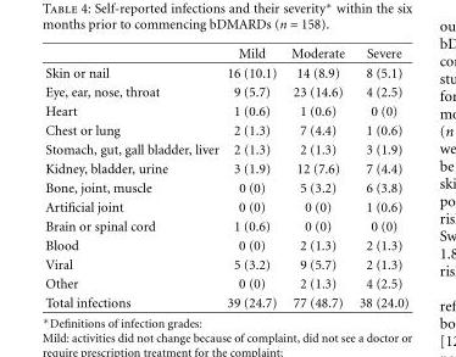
<table><thead><tr><td></td><td>Mild</td><td>Moderate</td><td>Severe</td></tr></thead><tbody><tr><td>Skin or nail</td><td>16 (10.1)</td><td>14 (8.9)</td><td>8 (5.1)</td></tr><tr><td>Eye, ear, nose, throat</td><td>9 (5.7)</td><td>23 (14.6)</td><td>4 (2.5)</td></tr><tr><td>Heart</td><td>1 (0.6)</td><td>1 (0.6)</td><td>0 (0)</td></tr><tr><td>Chest or lung</td><td>2 (1.3)</td><td>7 (4.4)</td><td>1 (0.6)</td></tr><tr><td>Stomach, gut, gall bladder, liver</td><td>2 (1.3)</td><td>2 (1.3)</td><td>3 (1.9)</td></tr><tr><td>Kidney, bladder, urine</td><td>3 (1.9)</td><td>12 (7.6)</td><td>7 (4.4)</td></tr><tr><td>Bone, joint, muscle</td><td>0 (0)</td><td>5 (3.2)</td><td>6 (3.8)</td></tr><tr><td>Artificial joint</td><td>0 (0)</td><td>0 (0)</td><td>1 (0.6)</td></tr><tr><td>Brain or spinal cord</td><td>1 (0.6)</td><td>0 (0)</td><td>0 (0)</td></tr><tr><td>Blood</td><td>0 (0)</td><td>2 (1.3)</td><td>2 (1.3)</td></tr><tr><td>Viral</td><td>5 (3.2)</td><td>9 (5.7)</td><td>2 (1.3)</td></tr><tr><td>Other</td><td>0 (0)</td><td>2 (1.3)</td><td>4 (2.5)</td></tr><tr><td>Total infections</td><td>39 (24.7)</td><td>77 (48.7)</td><td>38 (24.0)</td></tr></tbody></table>